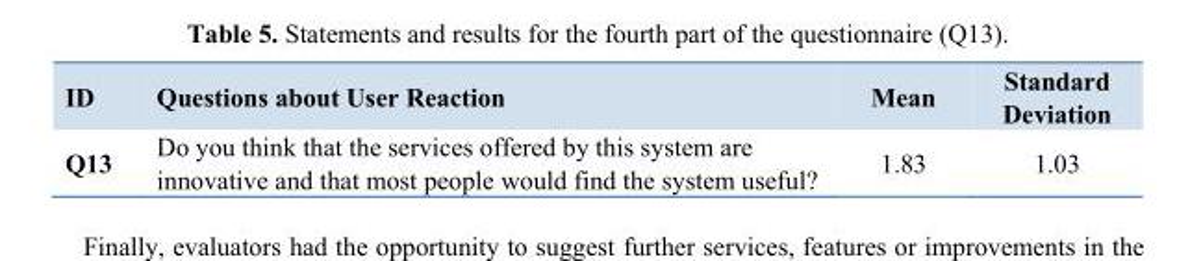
<table><thead><tr><td>ID</td><td>Questions about User Reaction</td><td>Mean</td><td>Standard Deviation</td></tr></thead><tbody><tr><td>Q13</td><td>Do you think that the services offered by this system are innovative and that most people would find the system useful?</td><td>1.83</td><td>1.03</td></tr></tbody></table>